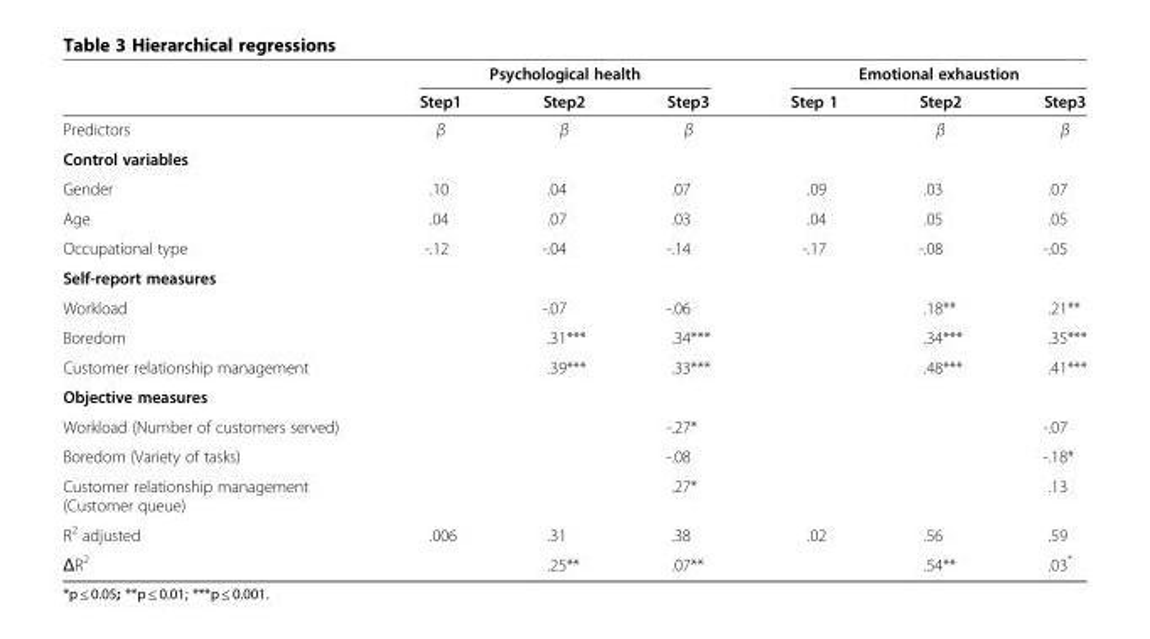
<table><thead><tr><td rowspan="2"></td><td colspan="3">Psychological health</td><td colspan="3">Emotional exhaustion</td></tr><tr><td>Step1</td><td>Step2</td><td>Step3</td><td>Step 1</td><td>Step2</td><td>Step3</td></tr></thead><tbody><tr><td>Predictors</td><td>β</td><td>β</td><td>β</td><td></td><td>β</td><td>β</td></tr><tr><td colspan="7">Control variables</td></tr><tr><td>Gender</td><td>.10</td><td>.04</td><td>.07</td><td>.09</td><td>.03</td><td>.07</td></tr><tr><td>Age</td><td>.04</td><td>.07</td><td>.03</td><td>.04</td><td>.05</td><td>.05</td></tr><tr><td>Occupational type</td><td>-.12</td><td>-.04</td><td>-.14</td><td>-.17</td><td>-.08</td><td>-.05</td></tr><tr><td colspan="7">Self-report measures</td></tr><tr><td>Workload</td><td></td><td>-.07</td><td>-.06</td><td></td><td>.18**</td><td>.21**</td></tr><tr><td>Boredom</td><td></td><td>.31***</td><td>.34***</td><td></td><td>.34***</td><td>.35***</td></tr><tr><td>Customer relationship management</td><td></td><td>.39***</td><td>.33***</td><td></td><td>.48***</td><td>.41***</td></tr><tr><td colspan="7">Objective measures</td></tr><tr><td>Workload (Number of customers served)</td><td></td><td></td><td>-.27*</td><td></td><td></td><td>-.07</td></tr><tr><td>Boredom (Variety of tasks)</td><td></td><td></td><td>-.08</td><td></td><td></td><td>-.18*</td></tr><tr><td>Customer relationship management (Customer queue)</td><td></td><td></td><td>.27*</td><td></td><td></td><td>.13</td></tr><tr><td>R<sup>2</sup> adjusted</td><td>.006</td><td>.31</td><td>.38</td><td>.02</td><td>.56</td><td>.59</td></tr><tr><td>ΔR<sup>2</sup></td><td></td><td>.25**</td><td>.07**</td><td></td><td>.54**</td><td>.03*</td></tr></tbody></table>